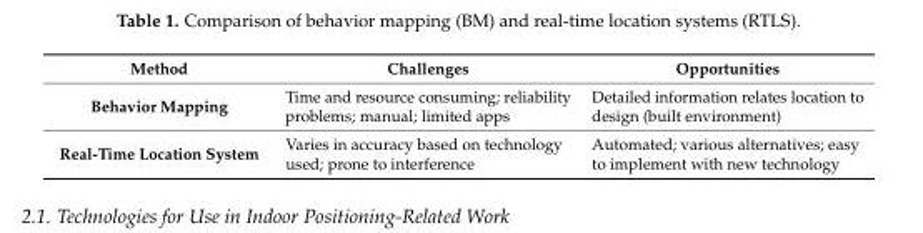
<table><thead><tr><td>Method</td><td>Challenges</td><td>Opportunities</td></tr></thead><tbody><tr><td>Behavior Mapping</td><td>Time and resource consuming; reliability problems; manual; limited apps</td><td>Detailed information relates location to design (built environment)</td></tr><tr><td>Real-Time Location System</td><td>Varies in accuracy based on technology used; prone to interference</td><td>Automated; various alternatives; easy to implement with new technology</td></tr></tbody></table>